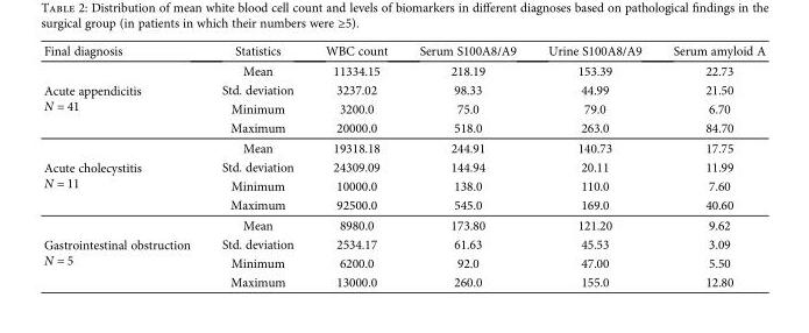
<table><thead><tr><td>Final diagnosis</td><td>Statistics</td><td>WBC count</td><td>Serum S100A8/A9</td><td>Urine S100A8/A9</td><td>Serum amyloid A</td></tr></thead><tbody><tr><td rowspan="4">Acute appendicitis N = 41</td><td>Mean</td><td>11334.15</td><td>218.19</td><td>153.39</td><td>22.73</td></tr><tr><td>Std. deviation</td><td>3237.02</td><td>98.33</td><td>44.99</td><td>21.50</td></tr><tr><td>Minimum</td><td>3200.0</td><td>75.0</td><td>79.0</td><td>6.70</td></tr><tr><td>Maximum</td><td>20000.0</td><td>518.0</td><td>263.0</td><td>84.70</td></tr><tr><td rowspan="4">Acute cholecystitis N = 11</td><td>Mean</td><td>19318.18</td><td>244.91</td><td>140.73</td><td>17.75</td></tr><tr><td>Std. deviation</td><td>24309.09</td><td>144.94</td><td>20.11</td><td>11.99</td></tr><tr><td>Minimum</td><td>10000.0</td><td>138.0</td><td>110.0</td><td>7.60</td></tr><tr><td>Maximum</td><td>92500.0</td><td>545.0</td><td>169.0</td><td>40.60</td></tr><tr><td rowspan="4">Gastrointestinal obstruction N = 5</td><td>Mean</td><td>8980.0</td><td>173.80</td><td>121.20</td><td>9.62</td></tr><tr><td>Std. deviation</td><td>2534.17</td><td>61.63</td><td>45.53</td><td>3.09</td></tr><tr><td>Minimum</td><td>6200.0</td><td>92.0</td><td>47.00</td><td>5.50</td></tr><tr><td>Maximum</td><td>13000.0</td><td>260.0</td><td>155.0</td><td>12.80</td></tr></tbody></table>